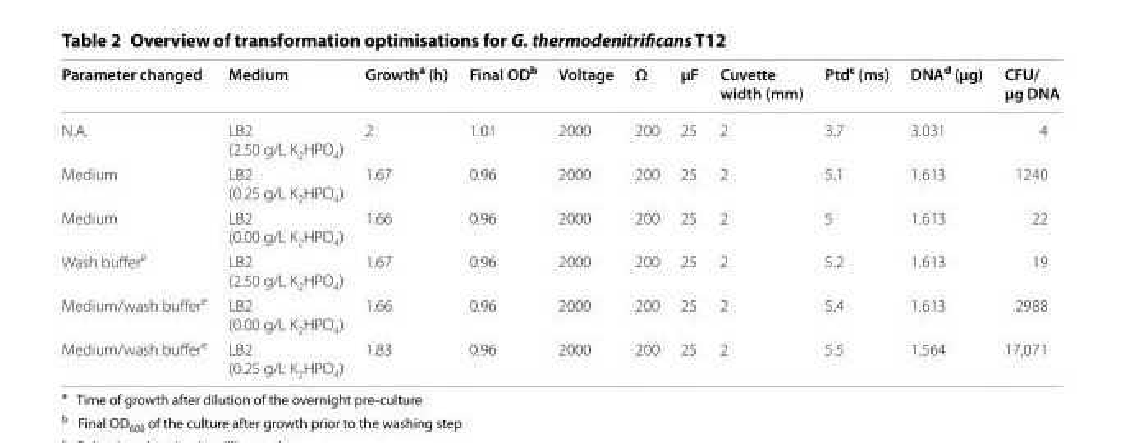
<table><thead><tr><td>Parameter changed</td><td>Medium</td><td>Growth<sup>a</sup> (h)</td><td>Final OD<sup>b</sup></td><td>Voltage</td><td>Ω</td><td>µF</td><td>Cuvette width (mm)</td><td>Ptd<sup>c</sup> (ms)</td><td>DNA<sup>d</sup> (µg)</td><td>CFU/ µg DNA</td></tr></thead><tbody><tr><td>N.A.</td><td>LB2 (2.50 g/L K<sub>2</sub>HPO<sub>4</sub>)</td><td>2</td><td>1.01</td><td>2000</td><td>200</td><td>25</td><td>2</td><td>3.7</td><td>3.031</td><td>4</td></tr><tr><td>Medium</td><td>LB2 (0.25 g/L K<sub>2</sub>HPO<sub>4</sub>)</td><td>1.67</td><td>0.96</td><td>2000</td><td>200</td><td>25</td><td>2</td><td>5.1</td><td>1.613</td><td>1240</td></tr><tr><td>Medium</td><td>LB2 (0.00 g/L K<sub>2</sub>HPO<sub>4</sub>)</td><td>1.66</td><td>0.96</td><td>2000</td><td>200</td><td>25</td><td>2</td><td>5</td><td>1.613</td><td>22</td></tr><tr><td>Wash buffer<sup>e</sup></td><td>LB2 (2.50 g/L K<sub>2</sub>HPO<sub>4</sub>)</td><td>1.67</td><td>0.96</td><td>2000</td><td>200</td><td>25</td><td>2</td><td>5.2</td><td>1.613</td><td>19</td></tr><tr><td>Medium/wash buffer<sup>e</sup></td><td>LB2 (0.00 g/L K<sub>2</sub>HPO<sub>4</sub>)</td><td>1.66</td><td>0.96</td><td>2000</td><td>200</td><td>25</td><td>2</td><td>5.4</td><td>1.613</td><td>2988</td></tr><tr><td>Medium/wash buffer<sup>e</sup></td><td>LB2 (0.25 g/L K<sub>2</sub>HPO<sub>4</sub>)</td><td>1.83</td><td>0.96</td><td>2000</td><td>200</td><td>25</td><td>2</td><td>5.5</td><td>1.564</td><td>17,071</td></tr></tbody></table>